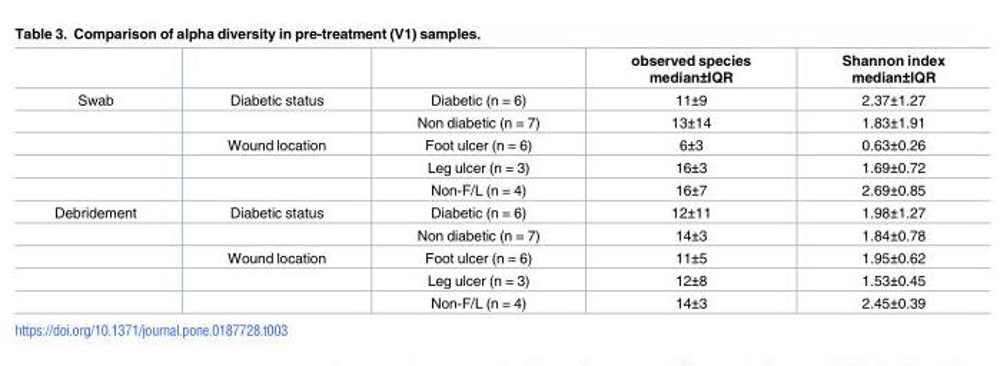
<table><thead><tr><td></td><td></td><td></td><td>observed species median±IQR</td><td>Shannon index median±IQR</td></tr></thead><tbody><tr><td rowspan="5">Swab</td><td>Diabetic status</td><td>Diabetic (n = 6)</td><td>11±9</td><td>2.37±1.27</td></tr><tr><td></td><td>Non diabetic (n = 7)</td><td>13±14</td><td>1.83±1.91</td></tr><tr><td>Wound location</td><td>Foot ulcer (n = 6)</td><td>6±3</td><td>0.63±0.26</td></tr><tr><td></td><td>Leg ulcer (n = 3)</td><td>16±3</td><td>1.69±0.72</td></tr><tr><td></td><td>Non-F/L (n = 4)</td><td>16±7</td><td>2.69±0.85</td></tr><tr><td rowspan="5">Debridement</td><td>Diabetic status</td><td>Diabetic (n = 6)</td><td>12±11</td><td>1.98±1.27</td></tr><tr><td></td><td>Non diabetic (n = 7)</td><td>14±3</td><td>1.84±0.78</td></tr><tr><td>Wound location</td><td>Foot ulcer (n = 6)</td><td>11±5</td><td>1.95±0.62</td></tr><tr><td></td><td>Leg ulcer (n = 3)</td><td>12±8</td><td>1.53±0.45</td></tr><tr><td></td><td>Non-F/L (n = 4)</td><td>14±3</td><td>2.45±0.39</td></tr></tbody></table>